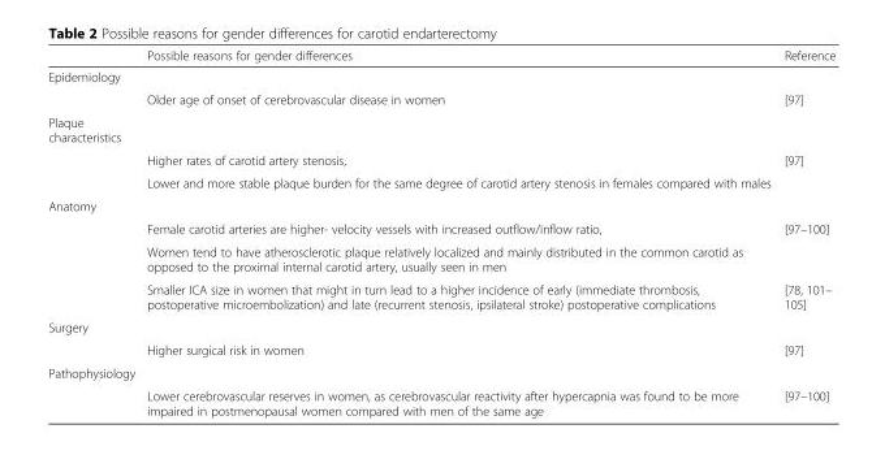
<table><thead><tr><td></td><td>Possible reasons for gender differences</td><td>Reference</td></tr></thead><tbody><tr><td colspan="3">Epidemiology</td></tr><tr><td></td><td>Older age of onset of cerebrovascular disease in women</td><td>[97]</td></tr><tr><td colspan="3">Plaque characteristics</td></tr><tr><td rowspan="2"></td><td>Higher rates of carotid artery stenosis,</td><td rowspan="2">[97]</td></tr><tr><td>Lower and more stable plaque burden for the same degree of carotid artery stenosis in females compared with males</td></tr><tr><td colspan="3">Anatomy</td></tr><tr><td rowspan="2"></td><td>Female carotid arteries are higher- velocity vessels with increased outflow/inflow ratio,</td><td rowspan="2">[97–100]</td></tr><tr><td>Women tend to have atherosclerotic plaque relatively localized and mainly distributed in the common carotid as opposed to the proximal internal carotid artery, usually seen in men</td></tr><tr><td></td><td>Smaller ICA size in women that might in turn lead to a higher incidence of early (immediate thrombosis, postoperative microembolization) and late (recurrent stenosis, ipsilateral stroke) postoperative complications</td><td>[78, 101– 105]</td></tr><tr><td colspan="3">Surgery</td></tr><tr><td></td><td>Higher surgical risk in women</td><td>[97]</td></tr><tr><td colspan="3">Pathophysiology</td></tr><tr><td></td><td>Lower cerebrovascular reserves in women, as cerebrovascular reactivity after hypercapnia was found to be more impaired in postmenopausal women compared with men of the same age</td><td>[97–100]</td></tr></tbody></table>